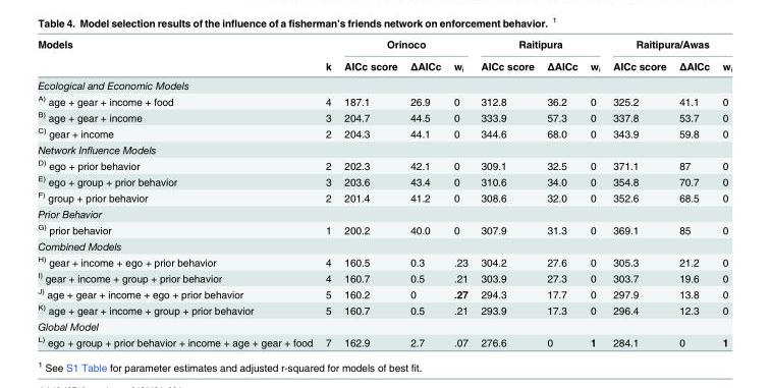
<table><thead><tr><td rowspan="2">Models</td><td rowspan="2">k</td><td colspan="3">Orinoco</td><td colspan="3">Raitipura</td><td colspan="3">Raitipura/Awas</td></tr><tr><td>AICc score</td><td>ΔAICc</td><td>w<sub>i</sub></td><td>AICc score</td><td>ΔAICc</td><td>w<sub>i</sub></td><td>AICc score</td><td>ΔAICc</td><td>w<sub>i</sub></td></tr></thead><tbody><tr><td colspan="11">Ecological and Economic Models</td></tr><tr><td><sup>A)</sup> age + gear + income + food</td><td>4</td><td>187.1</td><td>26.9</td><td>0</td><td>312.8</td><td>36.2</td><td>0</td><td>325.2</td><td>41.1</td><td>0</td></tr><tr><td><sup>B)</sup> age + gear + income</td><td>3</td><td>204.7</td><td>44.5</td><td>0</td><td>333.9</td><td>57.3</td><td>0</td><td>337.8</td><td>53.7</td><td>0</td></tr><tr><td><sup>C)</sup> gear + income</td><td>2</td><td>204.3</td><td>44.1</td><td>0</td><td>344.6</td><td>68.0</td><td>0</td><td>343.9</td><td>59.8</td><td>0</td></tr><tr><td colspan="11">Network Influence Models</td></tr><tr><td><sup>D)</sup> ego + prior behavior</td><td>2</td><td>202.3</td><td>42.1</td><td>0</td><td>309.1</td><td>32.5</td><td>0</td><td>371.1</td><td>87</td><td>0</td></tr><tr><td><sup>E)</sup> ego + group + prior behavior</td><td>3</td><td>203.6</td><td>43.4</td><td>0</td><td>310.6</td><td>34.0</td><td>0</td><td>354.8</td><td>70.7</td><td>0</td></tr><tr><td><sup>F)</sup> group + prior behavior</td><td>2</td><td>201.4</td><td>41.2</td><td>0</td><td>308.6</td><td>32.0</td><td>0</td><td>352.6</td><td>68.5</td><td>0</td></tr><tr><td colspan="11">Prior Behavior</td></tr><tr><td><sup>G)</sup> prior behavior</td><td>1</td><td>200.2</td><td>40.0</td><td>0</td><td>307.9</td><td>31.3</td><td>0</td><td>369.1</td><td>85</td><td>0</td></tr><tr><td colspan="11">Combined Models</td></tr><tr><td><sup>H)</sup> gear + income + ego + prior behavior</td><td>4</td><td>160.5</td><td>0.3</td><td>.23</td><td>304.2</td><td>27.6</td><td>0</td><td>305.3</td><td>21.2</td><td>0</td></tr><tr><td><sup>I)</sup> gear + income + group + prior behavior</td><td>4</td><td>160.7</td><td>0.5</td><td>.21</td><td>303.9</td><td>27.3</td><td>0</td><td>303.7</td><td>19.6</td><td>0</td></tr><tr><td><sup>J)</sup> age + gear + income + ego + prior behavior</td><td>5</td><td>160.2</td><td>0</td><td>.27</td><td>294.3</td><td>17.7</td><td>0</td><td>297.9</td><td>13.8</td><td>0</td></tr><tr><td><sup>K)</sup> age + gear + income + group + prior behavior</td><td>5</td><td>160.7</td><td>0.5</td><td>.21</td><td>293.9</td><td>17.3</td><td>0</td><td>296.4</td><td>12.3</td><td>0</td></tr><tr><td colspan="11">Global Model</td></tr><tr><td><sup>L)</sup> ego + group + prior behavior + income + age + gear + food</td><td>7</td><td>162.9</td><td>2.7</td><td>.07</td><td>276.6</td><td>0</td><td>1</td><td>284.1</td><td>0</td><td>1</td></tr></tbody></table>